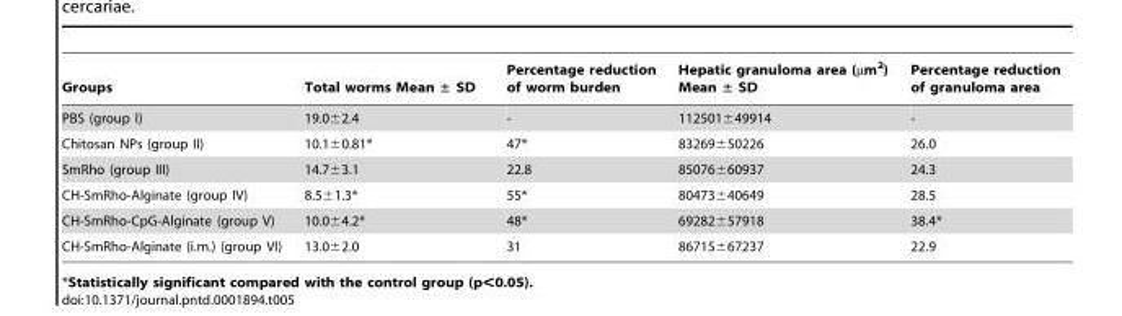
<table><thead><tr><td>Groups</td><td>Total worms Mean ± SD</td><td>Percentage reduction of worm burden</td><td>Hepatic granuloma area (µm<sup>2</sup>) Mean ± SD</td><td>Percentage reduction of granuloma area</td></tr></thead><tbody><tr><td>PBS (group I)</td><td>19.0±2.4</td><td>-</td><td>112501±49914</td><td>-</td></tr><tr><td>Chitosan NPs (group II)</td><td>10.1±0.81*</td><td>47*</td><td>83269±50226</td><td>26.0</td></tr><tr><td>SmRho (group III)</td><td>14.7±3.1</td><td>22.8</td><td>85076±60937</td><td>24.3</td></tr><tr><td>CH-SmRho-Alginate (group IV)</td><td>8.5±1.3*</td><td>55*</td><td>80473±40649</td><td>28.5</td></tr><tr><td>CH-SmRho-CpG-Alginate (group V)</td><td>10.0±4.2*</td><td>48*</td><td>69282±57918</td><td>38.4*</td></tr><tr><td>CH-SmRho-Alginate (i.m.) (group VI)</td><td>13.0±2.0</td><td>31</td><td>86715±67237</td><td>22.9</td></tr></tbody></table>